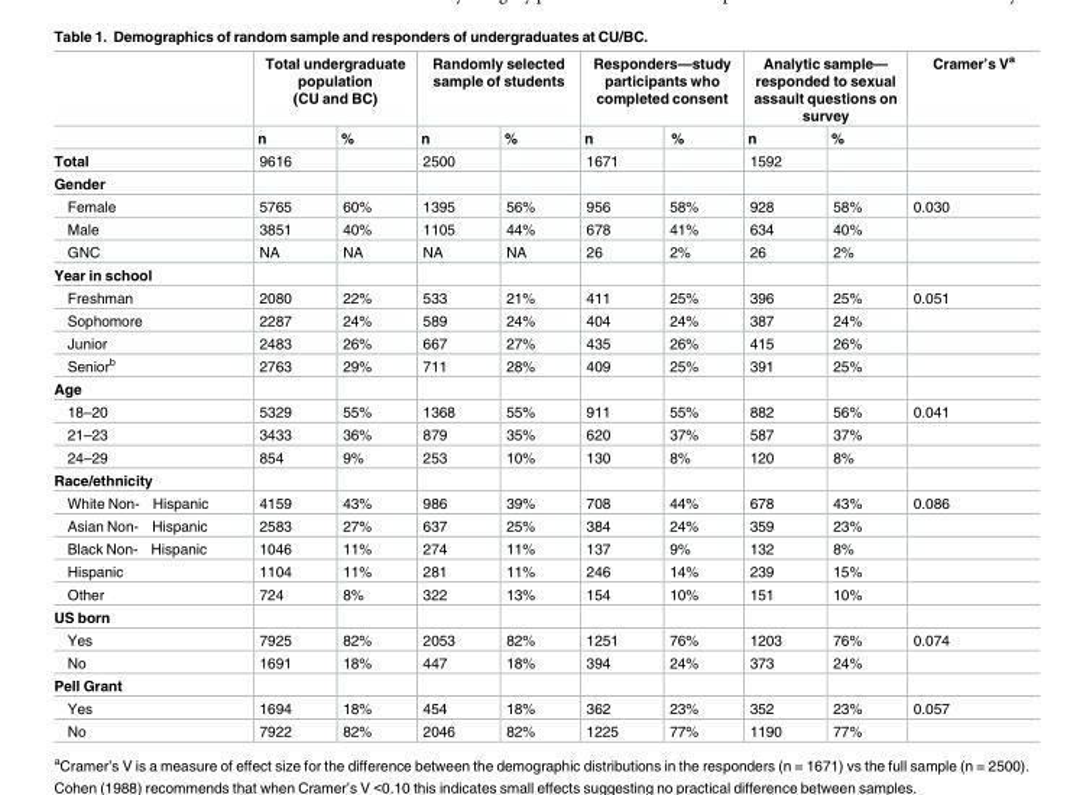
<table><thead><tr><td rowspan="2"></td><td colspan="2">Total undergraduate population (CU and BC)</td><td colspan="2">Randomly selected sample of students</td><td colspan="2">Responders—study participants who completed consent</td><td colspan="2">Analytic sample— responded to sexual assault questions on survey</td><td rowspan="2">Cramer’s V<sup>a</sup></td></tr><tr><td>n</td><td>%</td><td>n</td><td>%</td><td>n</td><td>%</td><td>n</td><td>%</td></tr></thead><tbody><tr><td>Total</td><td>9616</td><td></td><td>2500</td><td></td><td>1671</td><td></td><td>1592</td><td></td><td></td></tr><tr><td colspan="10">Gender</td></tr><tr><td>Female</td><td>5765</td><td>60%</td><td>1395</td><td>56%</td><td>956</td><td>58%</td><td>928</td><td>58%</td><td>0.030</td></tr><tr><td>Male</td><td>3851</td><td>40%</td><td>1105</td><td>44%</td><td>678</td><td>41%</td><td>634</td><td>40%</td><td></td></tr><tr><td>GNC</td><td>NA</td><td>NA</td><td>NA</td><td>NA</td><td>26</td><td>2%</td><td>26</td><td>2%</td><td></td></tr><tr><td colspan="10">Year in school</td></tr><tr><td>Freshman</td><td>2080</td><td>22%</td><td>533</td><td>21%</td><td>411</td><td>25%</td><td>396</td><td>25%</td><td>0.051</td></tr><tr><td>Sophomore</td><td>2287</td><td>24%</td><td>589</td><td>24%</td><td>404</td><td>24%</td><td>387</td><td>24%</td><td></td></tr><tr><td>Junior</td><td>2483</td><td>26%</td><td>667</td><td>27%</td><td>435</td><td>26%</td><td>415</td><td>26%</td><td></td></tr><tr><td>Senior<sup>b</sup></td><td>2763</td><td>29%</td><td>711</td><td>28%</td><td>409</td><td>25%</td><td>391</td><td>25%</td><td></td></tr><tr><td colspan="10">Age</td></tr><tr><td>18–20</td><td>5329</td><td>55%</td><td>1368</td><td>55%</td><td>911</td><td>55%</td><td>882</td><td>56%</td><td>0.041</td></tr><tr><td>21–23</td><td>3433</td><td>36%</td><td>879</td><td>35%</td><td>620</td><td>37%</td><td>587</td><td>37%</td><td></td></tr><tr><td>24–29</td><td>854</td><td>9%</td><td>253</td><td>10%</td><td>130</td><td>8%</td><td>120</td><td>8%</td><td></td></tr><tr><td colspan="10">Race/ethnicity</td></tr><tr><td>White Non- Hispanic</td><td>4159</td><td>43%</td><td>986</td><td>39%</td><td>708</td><td>44%</td><td>678</td><td>43%</td><td>0.086</td></tr><tr><td>Asian Non- Hispanic</td><td>2583</td><td>27%</td><td>637</td><td>25%</td><td>384</td><td>24%</td><td>359</td><td>23%</td><td></td></tr><tr><td>Black Non- Hispanic</td><td>1046</td><td>11%</td><td>274</td><td>11%</td><td>137</td><td>9%</td><td>132</td><td>8%</td><td></td></tr><tr><td>Hispanic</td><td>1104</td><td>11%</td><td>281</td><td>11%</td><td>246</td><td>14%</td><td>239</td><td>15%</td><td></td></tr><tr><td>Other</td><td>724</td><td>8%</td><td>322</td><td>13%</td><td>154</td><td>10%</td><td>151</td><td>10%</td><td></td></tr><tr><td colspan="10">US born</td></tr><tr><td>Yes</td><td>7925</td><td>82%</td><td>2053</td><td>82%</td><td>1251</td><td>76%</td><td>1203</td><td>76%</td><td>0.074</td></tr><tr><td>No</td><td>1691</td><td>18%</td><td>447</td><td>18%</td><td>394</td><td>24%</td><td>373</td><td>24%</td><td></td></tr><tr><td colspan="10">Pell Grant</td></tr><tr><td>Yes</td><td>1694</td><td>18%</td><td>454</td><td>18%</td><td>362</td><td>23%</td><td>352</td><td>23%</td><td>0.057</td></tr><tr><td>No</td><td>7922</td><td>82%</td><td>2046</td><td>82%</td><td>1225</td><td>77%</td><td>1190</td><td>77%</td><td></td></tr></tbody></table>